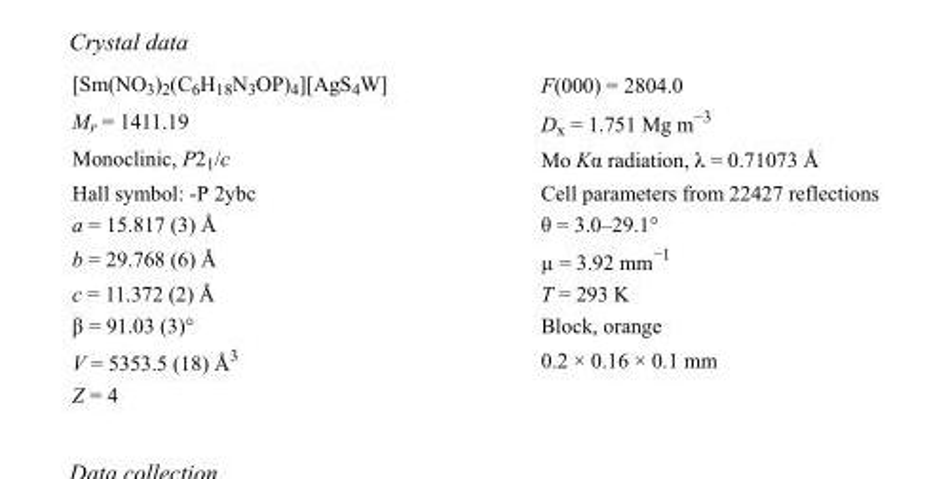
<table><tbody><tr><td>[Sm(NO<sub>3</sub>)<sub>2</sub>(C<sub>6</sub>H<sub>18</sub>N<sub>3</sub>OP)<sub>4</sub>][AgS<sub>4</sub>W]</td><td>F(000) = 2804.0</td></tr><tr><td>M<sub>r</sub> = 1411.19</td><td>D<sub>x</sub> = 1.751 Mg m<sup>−3</sup></td></tr><tr><td>Monoclinic, P2<sub>1</sub>/c</td><td>Mo Kα radiation, λ = 0.71073 Å</td></tr><tr><td>Hall symbol: -P 2ybc</td><td>Cell parameters from 22427 reflections</td></tr><tr><td>a = 15.817 (3) Å</td><td>θ = 3.0–29.1°</td></tr><tr><td>b = 29.768 (6) Å</td><td>µ = 3.92 mm<sup>−1</sup></td></tr><tr><td>c = 11.372 (2) Å</td><td>T = 293 K</td></tr><tr><td>β = 91.03 (3)°</td><td>Block, orange</td></tr><tr><td>V = 5353.5 (18) Å<sup>3</sup></td><td>0.2 × 0.16 × 0.1 mm</td></tr><tr><td>Z = 4</td><td></td></tr></tbody></table>